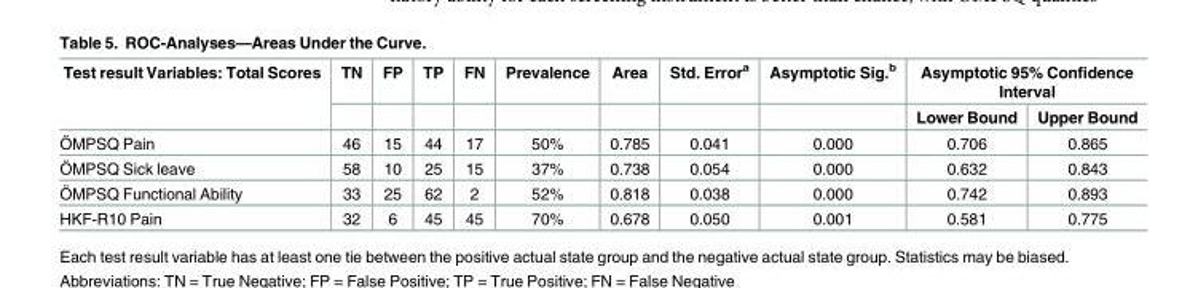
<table><thead><tr><td rowspan="2">Test result Variables: Total Scores</td><td rowspan="2">TN</td><td rowspan="2">FP</td><td rowspan="2">TP</td><td rowspan="2">FN</td><td rowspan="2">Prevalence</td><td rowspan="2">Area</td><td rowspan="2">Std. Error<sup>a</sup></td><td rowspan="2">Asymptotic Sig.<sup>b</sup></td><td colspan="2">Asymptotic 95% Confidence Interval</td></tr><tr><td>Lower Bound</td><td>Upper Bound</td></tr></thead><tbody><tr><td>ÖMPSQ Pain</td><td>46</td><td>15</td><td>44</td><td>17</td><td>50%</td><td>0.785</td><td>0.041</td><td>0.000</td><td>0.706</td><td>0.865</td></tr><tr><td>ÖMPSQ Sick leave</td><td>58</td><td>10</td><td>25</td><td>15</td><td>37%</td><td>0.738</td><td>0.054</td><td>0.000</td><td>0.632</td><td>0.843</td></tr><tr><td>ÖMPSQ Functional Ability</td><td>33</td><td>25</td><td>62</td><td>2</td><td>52%</td><td>0.818</td><td>0.038</td><td>0.000</td><td>0.742</td><td>0.893</td></tr><tr><td>HKF-R10 Pain</td><td>32</td><td>6</td><td>45</td><td>45</td><td>70%</td><td>0.678</td><td>0.050</td><td>0.001</td><td>0.581</td><td>0.775</td></tr></tbody></table>